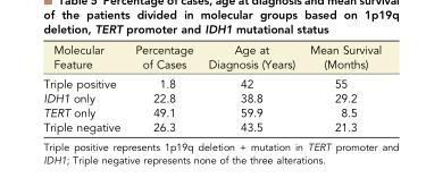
<table><thead><tr><td>Molecular Feature</td><td>Percentage of Cases</td><td>Age at Diagnosis (Years)</td><td>Mean Survival (Months)</td></tr></thead><tbody><tr><td>Triple positive</td><td>1.8</td><td>42</td><td>55</td></tr><tr><td>IDH1 only</td><td>22.8</td><td>38.8</td><td>29.2</td></tr><tr><td>TERT only</td><td>49.1</td><td>59.9</td><td>8.5</td></tr><tr><td>Triple negative</td><td>26.3</td><td>43.5</td><td>21.3</td></tr></tbody></table>